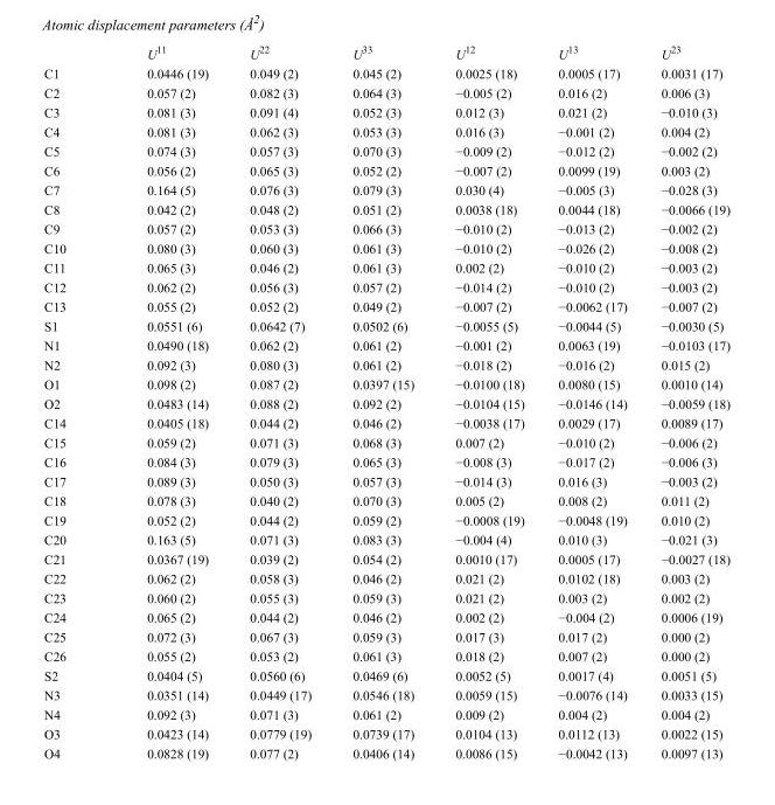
<table><thead><tr><td></td><td>U<sup>11</sup></td><td>U<sup>22</sup></td><td>U<sup>33</sup></td><td>U<sup>12</sup></td><td>U<sup>13</sup></td><td>U<sup>23</sup></td></tr></thead><tbody><tr><td>C1</td><td>0.0446 (19)</td><td>0.049 (2)</td><td>0.045 (2)</td><td>0.0025 (18)</td><td>0.0005 (17)</td><td>0.0031 (17)</td></tr><tr><td>C2</td><td>0.057 (2)</td><td>0.082 (3)</td><td>0.064 (3)</td><td>−0.005 (2)</td><td>0.016 (2)</td><td>0.006 (3)</td></tr><tr><td>C3</td><td>0.081 (3)</td><td>0.091 (4)</td><td>0.052 (3)</td><td>0.012 (3)</td><td>0.021 (2)</td><td>−0.010 (3)</td></tr><tr><td>C4</td><td>0.081 (3)</td><td>0.062 (3)</td><td>0.053 (3)</td><td>0.016 (3)</td><td>−0.001 (2)</td><td>0.004 (2)</td></tr><tr><td>C5</td><td>0.074 (3)</td><td>0.057 (3)</td><td>0.070 (3)</td><td>−0.009 (2)</td><td>−0.012 (2)</td><td>−0.002 (2)</td></tr><tr><td>C6</td><td>0.056 (2)</td><td>0.065 (3)</td><td>0.052 (2)</td><td>−0.007 (2)</td><td>0.0099 (19)</td><td>0.003 (2)</td></tr><tr><td>C7</td><td>0.164 (5)</td><td>0.076 (3)</td><td>0.079 (3)</td><td>0.030 (4)</td><td>−0.005 (3)</td><td>−0.028 (3)</td></tr><tr><td>C8</td><td>0.042 (2)</td><td>0.048 (2)</td><td>0.051 (2)</td><td>0.0038 (18)</td><td>0.0044 (18)</td><td>−0.0066 (19)</td></tr><tr><td>C9</td><td>0.057 (2)</td><td>0.053 (3)</td><td>0.066 (3)</td><td>−0.010 (2)</td><td>−0.013 (2)</td><td>−0.002 (2)</td></tr><tr><td>C10</td><td>0.080 (3)</td><td>0.060 (3)</td><td>0.061 (3)</td><td>−0.010 (2)</td><td>−0.026 (2)</td><td>−0.008 (2)</td></tr><tr><td>C11</td><td>0.065 (3)</td><td>0.046 (2)</td><td>0.061 (3)</td><td>0.002 (2)</td><td>−0.010 (2)</td><td>−0.003 (2)</td></tr><tr><td>C12</td><td>0.062 (2)</td><td>0.056 (3)</td><td>0.057 (2)</td><td>−0.014 (2)</td><td>−0.010 (2)</td><td>−0.003 (2)</td></tr><tr><td>C13</td><td>0.055 (2)</td><td>0.052 (2)</td><td>0.049 (2)</td><td>−0.007 (2)</td><td>−0.0062 (17)</td><td>−0.007 (2)</td></tr><tr><td>S1</td><td>0.0551 (6)</td><td>0.0642 (7)</td><td>0.0502 (6)</td><td>−0.0055 (5)</td><td>−0.0044 (5)</td><td>−0.0030 (5)</td></tr><tr><td>N1</td><td>0.0490 (18)</td><td>0.062 (2)</td><td>0.061 (2)</td><td>−0.001 (2)</td><td>0.0063 (19)</td><td>−0.0103 (17)</td></tr><tr><td>N2</td><td>0.092 (3)</td><td>0.080 (3)</td><td>0.061 (2)</td><td>−0.018 (2)</td><td>−0.016 (2)</td><td>0.015 (2)</td></tr><tr><td>O1</td><td>0.098 (2)</td><td>0.087 (2)</td><td>0.0397 (15)</td><td>−0.0100 (18)</td><td>0.0080 (15)</td><td>0.0010 (14)</td></tr><tr><td>O2</td><td>0.0483 (14)</td><td>0.088 (2)</td><td>0.092 (2)</td><td>−0.0104 (15)</td><td>−0.0146 (14)</td><td>−0.0059 (18)</td></tr><tr><td>C14</td><td>0.0405 (18)</td><td>0.044 (2)</td><td>0.046 (2)</td><td>−0.0038 (17)</td><td>0.0029 (17)</td><td>0.0089 (17)</td></tr><tr><td>C15</td><td>0.059 (2)</td><td>0.071 (3)</td><td>0.068 (3)</td><td>0.007 (2)</td><td>−0.010 (2)</td><td>−0.006 (2)</td></tr><tr><td>C16</td><td>0.084 (3)</td><td>0.079 (3)</td><td>0.065 (3)</td><td>−0.008 (3)</td><td>−0.017 (2)</td><td>−0.006 (3)</td></tr><tr><td>C17</td><td>0.089 (3)</td><td>0.050 (3)</td><td>0.057 (3)</td><td>−0.014 (3)</td><td>0.016 (3)</td><td>−0.003 (2)</td></tr><tr><td>C18</td><td>0.078 (3)</td><td>0.040 (2)</td><td>0.070 (3)</td><td>0.005 (2)</td><td>0.008 (2)</td><td>0.011 (2)</td></tr><tr><td>C19</td><td>0.052 (2)</td><td>0.044 (2)</td><td>0.059 (2)</td><td>−0.0008 (19)</td><td>−0.0048 (19)</td><td>0.010 (2)</td></tr><tr><td>C20</td><td>0.163 (5)</td><td>0.071 (3)</td><td>0.083 (3)</td><td>−0.004 (4)</td><td>0.010 (3)</td><td>−0.021 (3)</td></tr><tr><td>C21</td><td>0.0367 (19)</td><td>0.039 (2)</td><td>0.054 (2)</td><td>0.0010 (17)</td><td>0.0005 (17)</td><td>−0.0027 (18)</td></tr><tr><td>C22</td><td>0.062 (2)</td><td>0.058 (3)</td><td>0.046 (2)</td><td>0.021 (2)</td><td>0.0102 (18)</td><td>0.003 (2)</td></tr><tr><td>C23</td><td>0.060 (2)</td><td>0.055 (3)</td><td>0.059 (3)</td><td>0.021 (2)</td><td>0.003 (2)</td><td>0.002 (2)</td></tr><tr><td>C24</td><td>0.065 (2)</td><td>0.044 (2)</td><td>0.046 (2)</td><td>0.002 (2)</td><td>−0.004 (2)</td><td>0.0006 (19)</td></tr><tr><td>C25</td><td>0.072 (3)</td><td>0.067 (3)</td><td>0.059 (3)</td><td>0.017 (3)</td><td>0.017 (2)</td><td>0.000 (2)</td></tr><tr><td>C26</td><td>0.055 (2)</td><td>0.053 (2)</td><td>0.061 (3)</td><td>0.018 (2)</td><td>0.007 (2)</td><td>0.000 (2)</td></tr><tr><td>S2</td><td>0.0404 (5)</td><td>0.0560 (6)</td><td>0.0469 (6)</td><td>0.0052 (5)</td><td>0.0017 (4)</td><td>0.0051 (5)</td></tr><tr><td>N3</td><td>0.0351 (14)</td><td>0.0449 (17)</td><td>0.0546 (18)</td><td>0.0059 (15)</td><td>−0.0076 (14)</td><td>0.0033 (15)</td></tr><tr><td>N4</td><td>0.092 (3)</td><td>0.071 (3)</td><td>0.061 (2)</td><td>0.009 (2)</td><td>0.004 (2)</td><td>0.004 (2)</td></tr><tr><td>O3</td><td>0.0423 (14)</td><td>0.0779 (19)</td><td>0.0739 (17)</td><td>0.0104 (13)</td><td>0.0112 (13)</td><td>0.0022 (15)</td></tr><tr><td>O4</td><td>0.0828 (19)</td><td>0.077 (2)</td><td>0.0406 (14)</td><td>0.0086 (15)</td><td>−0.0042 (13)</td><td>0.0097 (13)</td></tr></tbody></table>